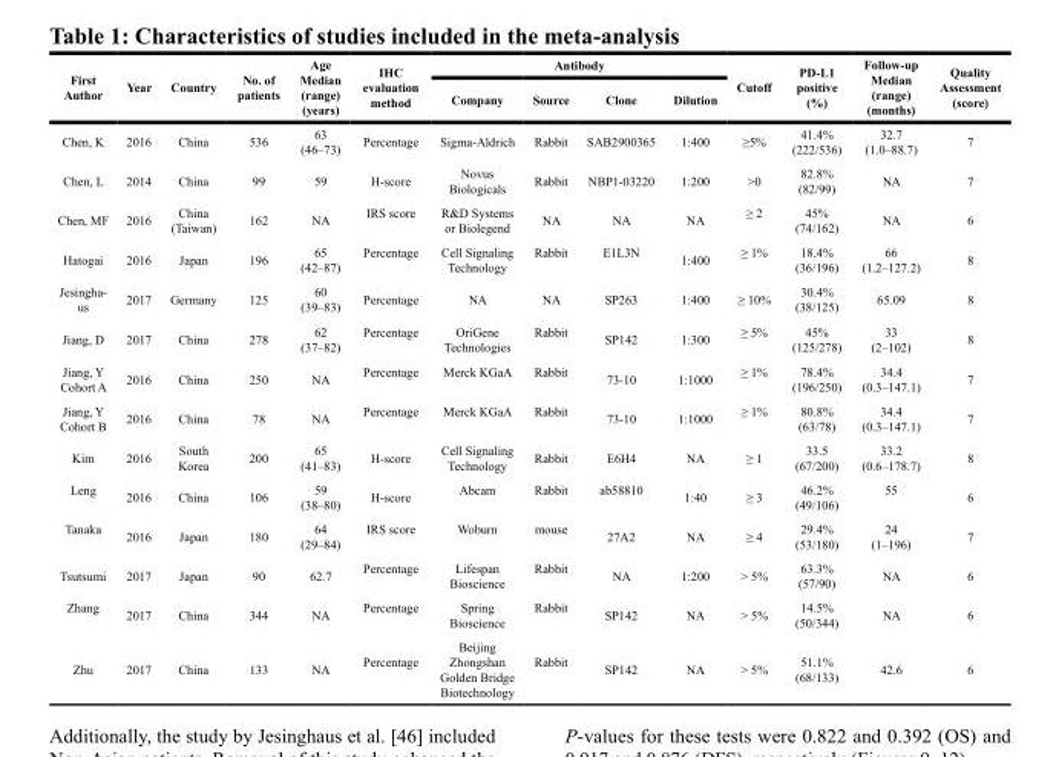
<table><thead><tr><td rowspan="2">First Author</td><td rowspan="2">Year</td><td rowspan="2">Country</td><td rowspan="2">No. of patients</td><td rowspan="2">Age Median (range) (years)</td><td rowspan="2">IHC evaluation method</td><td colspan="4">Antibody</td><td rowspan="2">Cutoff</td><td rowspan="2">PD-L1 positive (%)</td><td rowspan="2">Follow-up Median (range) (months)</td><td rowspan="2">Quality Assessment (score)</td></tr><tr><td>Company</td><td>Source</td><td>Clone</td><td>Dilution</td></tr></thead><tbody><tr><td>Chen, K</td><td>2016</td><td>China</td><td>536</td><td>63 (46–73)</td><td>Percentage</td><td>Sigma-Aldrich</td><td>Rabbit</td><td>SAB2900365</td><td>1:400</td><td>≥5%</td><td>41.4% (222/536)</td><td>32.7 (1.0–88.7)</td><td>7</td></tr><tr><td>Chen, L</td><td>2014</td><td>China</td><td>99</td><td>59</td><td>H-score</td><td>Novus Biologicals</td><td>Rabbit</td><td>NBP1-03220</td><td>1:200</td><td>&gt;0</td><td>82.8% (82/99)</td><td>NA</td><td>7</td></tr><tr><td>Chen, MF</td><td>2016</td><td>China (Taiwan)</td><td>162</td><td>NA</td><td>IRS score</td><td>R&amp;D Systems or Biolegend</td><td>NA</td><td>NA</td><td>NA</td><td>≥ 2</td><td>45% (74/162)</td><td>NA</td><td>6</td></tr><tr><td>Hatogai</td><td>2016</td><td>Japan</td><td>196</td><td>65 (42–87)</td><td>Percentage</td><td>Cell Signaling Technology</td><td>Rabbit</td><td>E1L3N</td><td>1:400</td><td>≥ 1%</td><td>18.4% (36/196)</td><td>66 (1.2–127.2)</td><td>8</td></tr><tr><td>Jesingha- us</td><td>2017</td><td>Germany</td><td>125</td><td>60 (39–83)</td><td>Percentage</td><td>NA</td><td>NA</td><td>SP263</td><td>1:400</td><td>≥ 10%</td><td>30.4% (38/125)</td><td>65.09</td><td>8</td></tr><tr><td>Jiang, D</td><td>2017</td><td>China</td><td>278</td><td>62 (37–82)</td><td>Percentage</td><td>OriGene Technologies</td><td>Rabbit</td><td>SP142</td><td>1:300</td><td>≥ 5%</td><td>45% (125/278)</td><td>33 (2–102)</td><td>8</td></tr><tr><td>Jiang, Y Cohort A</td><td>2016</td><td>China</td><td>250</td><td>NA</td><td>Percentage</td><td>Merck KGaA</td><td>Rabbit</td><td>73-10</td><td>1:1000</td><td>≥ 1%</td><td>78.4% (196/250)</td><td>34.4 (0.3–147.1)</td><td>7</td></tr><tr><td>Jiang, Y Cohort B</td><td>2016</td><td>China</td><td>78</td><td>NA</td><td>Percentage</td><td>Merck KGaA</td><td>Rabbit</td><td>73-10</td><td>1:1000</td><td>≥ 1%</td><td>80.8% (63/78)</td><td>34.4 (0.3–147.1)</td><td>7</td></tr><tr><td>Kim</td><td>2016</td><td>South Korea</td><td>200</td><td>65 (41–83)</td><td>H-score</td><td>Cell Signaling Technology</td><td>Rabbit</td><td>E6H4</td><td>NA</td><td>≥ 1</td><td>33.5 (67/200)</td><td>33.2 (0.6–178.7)</td><td>8</td></tr><tr><td>Leng</td><td>2016</td><td>China</td><td>106</td><td>59 (38–80)</td><td>H-score</td><td>Abcam</td><td>Rabbit</td><td>ab58810</td><td>1:40</td><td>≥ 3</td><td>46.2% (49/106)</td><td>55</td><td>6</td></tr><tr><td>Tanaka</td><td>2016</td><td>Japan</td><td>180</td><td>64 (29–84)</td><td>IRS score</td><td>Woburn</td><td>mouse</td><td>27A2</td><td>NA</td><td>≥ 4</td><td>29.4% (53/180)</td><td>24 (1–196)</td><td>7</td></tr><tr><td>Tsutsumi</td><td>2017</td><td>Japan</td><td>90</td><td>62.7</td><td>Percentage</td><td>Lifespan Bioscience</td><td>Rabbit</td><td>NA</td><td>1:200</td><td>&gt; 5%</td><td>63.3% (57/90)</td><td>NA</td><td>6</td></tr><tr><td>Zhang</td><td>2017</td><td>China</td><td>344</td><td>NA</td><td>Percentage</td><td>Spring Bioscience</td><td>Rabbit</td><td>SP142</td><td>NA</td><td>&gt; 5%</td><td>14.5% (50/344)</td><td>NA</td><td>6</td></tr><tr><td>Zhu</td><td>2017</td><td>China</td><td>133</td><td>NA</td><td>Percentage</td><td>Beijing Zhongshan Golden Bridge Biotechnology</td><td>Rabbit</td><td>SP142</td><td>NA</td><td>&gt; 5%</td><td>51.1% (68/133)</td><td>42.6</td><td>6</td></tr></tbody></table>